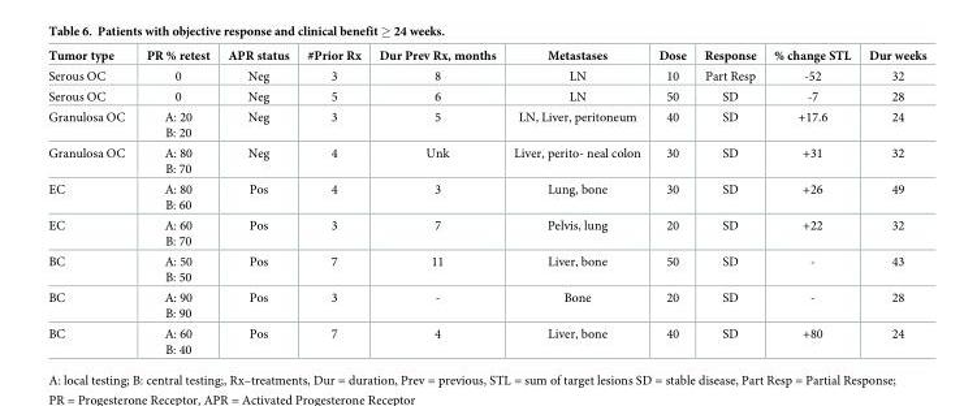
<table><thead><tr><td>Tumor type</td><td>PR % retest</td><td>APR status</td><td>#Prior Rx</td><td>Dur Prev Rx, months</td><td>Metastases</td><td>Dose</td><td>Response</td><td>% change STL</td><td>Dur weeks</td></tr></thead><tbody><tr><td>Serous OC</td><td>0</td><td>Neg</td><td>3</td><td>8</td><td>LN</td><td>10</td><td>Part Resp</td><td>-52</td><td>32</td></tr><tr><td>Serous OC</td><td>0</td><td>Neg</td><td>5</td><td>6</td><td>LN</td><td>50</td><td>SD</td><td>-7</td><td>28</td></tr><tr><td>Granulosa OC</td><td>A: 20 B: 20</td><td>Neg</td><td>3</td><td>5</td><td>LN, Liver, peritoneum</td><td>40</td><td>SD</td><td>+17.6</td><td>24</td></tr><tr><td>Granulosa OC</td><td>A: 80 B: 70</td><td>Neg</td><td>4</td><td>Unk</td><td>Liver, perito- neal colon</td><td>30</td><td>SD</td><td>+31</td><td>32</td></tr><tr><td>EC</td><td>A: 80 B: 60</td><td>Pos</td><td>4</td><td>3</td><td>Lung, bone</td><td>30</td><td>SD</td><td>+26</td><td>49</td></tr><tr><td>EC</td><td>A: 60 B: 70</td><td>Pos</td><td>3</td><td>7</td><td>Pelvis, lung</td><td>20</td><td>SD</td><td>+22</td><td>32</td></tr><tr><td>BC</td><td>A: 50 B: 50</td><td>Pos</td><td>7</td><td>11</td><td>Liver, bone</td><td>50</td><td>SD</td><td>-</td><td>43</td></tr><tr><td>BC</td><td>A: 90 B: 90</td><td>Pos</td><td>3</td><td>-</td><td>Bone</td><td>20</td><td>SD</td><td>-</td><td>28</td></tr><tr><td>BC</td><td>A: 60 B: 40</td><td>Pos</td><td>7</td><td>4</td><td>Liver, bone</td><td>40</td><td>SD</td><td>+80</td><td>24</td></tr></tbody></table>